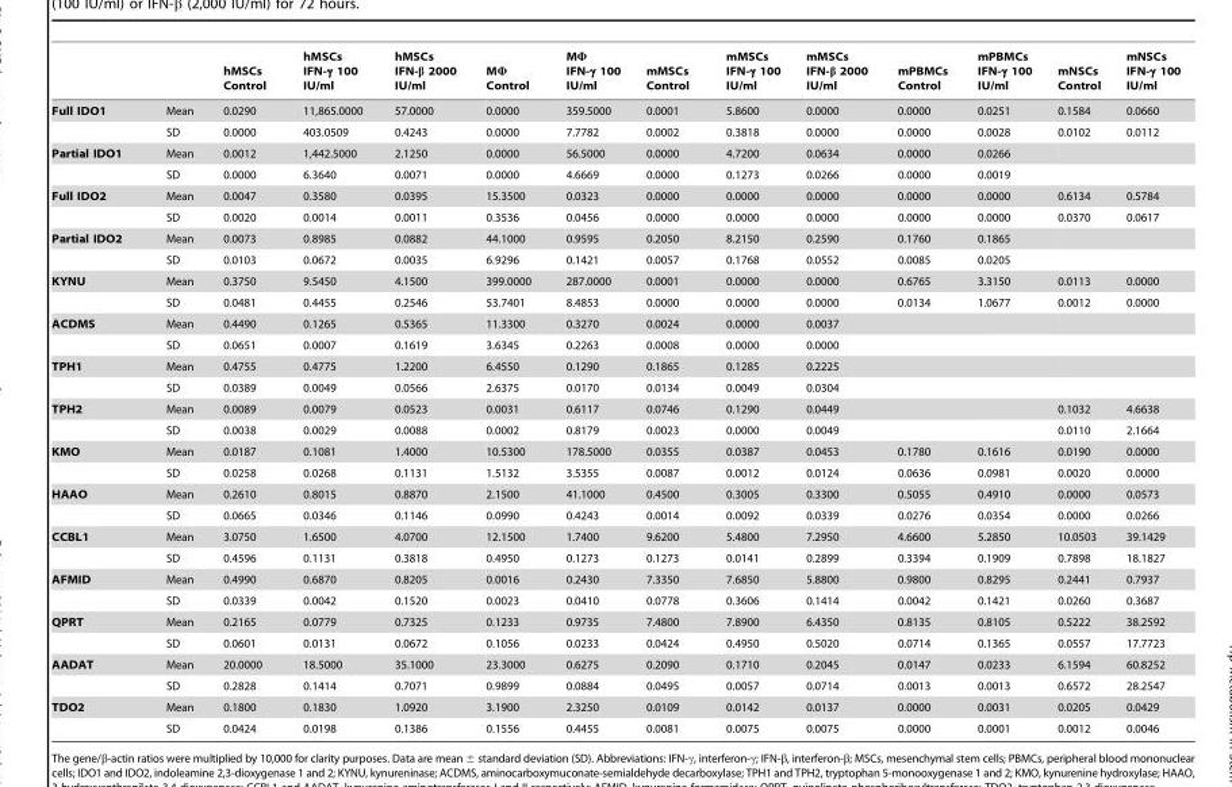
<table><thead><tr><td></td><td></td><td>hMSCs Control</td><td>hMSCs IFN-γ 100 IU/ml</td><td>hMSCs IFN-β 2000 IU/ml</td><td>MΦ Control</td><td>MΦ IFN-γ 100 IU/ml</td><td>mMSCs Control</td><td>mMSCs IFN-γ 100 IU/ml</td><td>mMSCs IFN-β 2000 IU/ml</td><td>mPBMCs Control</td><td>mPBMCs IFN-γ 100 IU/ml</td><td>mNSCs Control</td><td>mNSCs IFN-γ 100 IU/ml</td></tr></thead><tbody><tr><td rowspan="2">Full IDO1</td><td>Mean</td><td>0.0290</td><td>11,865.0000</td><td>57.0000</td><td>0.0000</td><td>359.5000</td><td>0.0001</td><td>5.8600</td><td>0.0000</td><td>0.0000</td><td>0.0251</td><td>0.1584</td><td>0.0660</td></tr><tr><td>SD</td><td>0.0000</td><td>403.0509</td><td>0.4243</td><td>0.0000</td><td>7.7782</td><td>0.0002</td><td>0.3818</td><td>0.0000</td><td>0.0000</td><td>0.0028</td><td>0.0102</td><td>0.0112</td></tr><tr><td rowspan="2">Partial IDO1</td><td>Mean</td><td>0.0012</td><td>1,442.5000</td><td>2.1250</td><td>0.0000</td><td>56.5000</td><td>0.0000</td><td>4.7200</td><td>0.0634</td><td>0.0000</td><td>0.0266</td><td></td><td></td></tr><tr><td>SD</td><td>0.0000</td><td>6.3640</td><td>0.0071</td><td>0.0000</td><td>4.6669</td><td>0.0000</td><td>0.1273</td><td>0.0266</td><td>0.0000</td><td>0.0019</td><td></td><td></td></tr><tr><td rowspan="2">Full IDO2</td><td>Mean</td><td>0.0047</td><td>0.3580</td><td>0.0395</td><td>15.3500</td><td>0.0323</td><td>0.0000</td><td>0.0000</td><td>0.0000</td><td>0.0000</td><td>0.0000</td><td>0.6134</td><td>0.5784</td></tr><tr><td>SD</td><td>0.0020</td><td>0.0014</td><td>0.0011</td><td>0.3536</td><td>0.0456</td><td>0.0000</td><td>0.0000</td><td>0.0000</td><td>0.0000</td><td>0.0000</td><td>0.0370</td><td>0.0617</td></tr><tr><td rowspan="2">Partial IDO2</td><td>Mean</td><td>0.0073</td><td>0.8985</td><td>0.0882</td><td>44.1000</td><td>0.9595</td><td>0.2050</td><td>8.2150</td><td>0.2590</td><td>0.1760</td><td>0.1865</td><td></td><td></td></tr><tr><td>SD</td><td>0.0103</td><td>0.0672</td><td>0.0035</td><td>6.9296</td><td>0.1421</td><td>0.0057</td><td>0.1768</td><td>0.0552</td><td>0.0085</td><td>0.0205</td><td></td><td></td></tr><tr><td rowspan="2">KYNU</td><td>Mean</td><td>0.3750</td><td>9.5450</td><td>4.1500</td><td>399.0000</td><td>287.0000</td><td>0.0001</td><td>0.0000</td><td>0.0000</td><td>0.6765</td><td>3.3150</td><td>0.0113</td><td>0.0000</td></tr><tr><td>SD</td><td>0.0481</td><td>0.4455</td><td>0.2546</td><td>53.7401</td><td>8.4853</td><td>0.0000</td><td>0.0000</td><td>0.0000</td><td>0.0134</td><td>1.0677</td><td>0.0012</td><td>0.0000</td></tr><tr><td rowspan="2">ACDMS</td><td>Mean</td><td>0.4490</td><td>0.1265</td><td>0.5365</td><td>11.3300</td><td>0.3270</td><td>0.0024</td><td>0.0000</td><td>0.0037</td><td></td><td></td><td></td><td></td></tr><tr><td>SD</td><td>0.0651</td><td>0.0007</td><td>0.1619</td><td>3.6345</td><td>0.2263</td><td>0.0008</td><td>0.0000</td><td>0.0000</td><td></td><td></td><td></td><td></td></tr><tr><td rowspan="2">TPH1</td><td>Mean</td><td>0.4755</td><td>0.4775</td><td>1.2200</td><td>6.4550</td><td>0.1290</td><td>0.1865</td><td>0.1285</td><td>0.2225</td><td></td><td></td><td></td><td></td></tr><tr><td>SD</td><td>0.0389</td><td>0.0049</td><td>0.0566</td><td>2.6375</td><td>0.0170</td><td>0.0134</td><td>0.0049</td><td>0.0304</td><td></td><td></td><td></td><td></td></tr><tr><td rowspan="2">TPH2</td><td>Mean</td><td>0.0089</td><td>0.0079</td><td>0.0523</td><td>0.0031</td><td>0.6117</td><td>0.0746</td><td>0.1290</td><td>0.0449</td><td></td><td></td><td>0.1032</td><td>4.6638</td></tr><tr><td>SD</td><td>0.0038</td><td>0.0029</td><td>0.0088</td><td>0.0002</td><td>0.8179</td><td>0.0023</td><td>0.0000</td><td>0.0049</td><td></td><td></td><td>0.0110</td><td>2.1664</td></tr><tr><td rowspan="2">KMO</td><td>Mean</td><td>0.0187</td><td>0.1081</td><td>1.4000</td><td>10.5300</td><td>178.5000</td><td>0.0355</td><td>0.0387</td><td>0.0453</td><td>0.1780</td><td>0.1616</td><td>0.0190</td><td>0.0000</td></tr><tr><td>SD</td><td>0.0258</td><td>0.0268</td><td>0.1131</td><td>1.5132</td><td>3.5355</td><td>0.0087</td><td>0.0012</td><td>0.0124</td><td>0.0636</td><td>0.0981</td><td>0.0020</td><td>0.0000</td></tr><tr><td rowspan="2">HAAO</td><td>Mean</td><td>0.2610</td><td>0.8015</td><td>0.8870</td><td>2.1500</td><td>41.1000</td><td>0.4500</td><td>0.3005</td><td>0.3300</td><td>0.5055</td><td>0.4910</td><td>0.0000</td><td>0.0573</td></tr><tr><td>SD</td><td>0.0665</td><td>0.0346</td><td>0.1146</td><td>0.0990</td><td>0.4243</td><td>0.0014</td><td>0.0092</td><td>0.0339</td><td>0.0276</td><td>0.0354</td><td>0.0000</td><td>0.0266</td></tr><tr><td rowspan="2">CCBL1</td><td>Mean</td><td>3.0750</td><td>1.6500</td><td>4.0700</td><td>12.1500</td><td>1.7400</td><td>9.6200</td><td>5.4800</td><td>7.2950</td><td>4.6600</td><td>5.2850</td><td>10.0503</td><td>39.1429</td></tr><tr><td>SD</td><td>0.4596</td><td>0.1131</td><td>0.3818</td><td>0.4950</td><td>0.1273</td><td>0.1273</td><td>0.0141</td><td>0.2899</td><td>0.3394</td><td>0.1909</td><td>0.7898</td><td>18.1827</td></tr><tr><td rowspan="2">AFMID</td><td>Mean</td><td>0.4990</td><td>0.6870</td><td>0.8205</td><td>0.0016</td><td>0.2430</td><td>7.3350</td><td>7.6850</td><td>5.8800</td><td>0.9800</td><td>0.8295</td><td>0.2441</td><td>0.7937</td></tr><tr><td>SD</td><td>0.0339</td><td>0.0042</td><td>0.1520</td><td>0.0023</td><td>0.0410</td><td>0.0778</td><td>0.3606</td><td>0.1414</td><td>0.0042</td><td>0.1421</td><td>0.0260</td><td>0.3687</td></tr><tr><td rowspan="2">QPRT</td><td>Mean</td><td>0.2165</td><td>0.0779</td><td>0.7325</td><td>0.1233</td><td>0.9735</td><td>7.4800</td><td>7.8900</td><td>6.4350</td><td>0.8135</td><td>0.8105</td><td>0.5222</td><td>38.2592</td></tr><tr><td>SD</td><td>0.0601</td><td>0.0131</td><td>0.0672</td><td>0.1056</td><td>0.0233</td><td>0.0424</td><td>0.4950</td><td>0.5020</td><td>0.0714</td><td>0.1365</td><td>0.0557</td><td>17.7723</td></tr><tr><td rowspan="2">AADAT</td><td>Mean</td><td>20.0000</td><td>18.5000</td><td>35.1000</td><td>23.3000</td><td>0.6275</td><td>0.2090</td><td>0.1710</td><td>0.2045</td><td>0.0147</td><td>0.0233</td><td>6.1594</td><td>60.8252</td></tr><tr><td>SD</td><td>0.2828</td><td>0.1414</td><td>0.7071</td><td>0.9899</td><td>0.0884</td><td>0.0495</td><td>0.0057</td><td>0.0714</td><td>0.0013</td><td>0.0013</td><td>0.6572</td><td>28.2547</td></tr><tr><td rowspan="2">TDO2</td><td>Mean</td><td>0.1800</td><td>0.1830</td><td>1.0920</td><td>3.1900</td><td>2.3250</td><td>0.0109</td><td>0.0142</td><td>0.0137</td><td>0.0000</td><td>0.0031</td><td>0.0205</td><td>0.0429</td></tr><tr><td>SD</td><td>0.0424</td><td>0.0198</td><td>0.1386</td><td>0.1556</td><td>0.4455</td><td>0.0081</td><td>0.0075</td><td>0.0075</td><td>0.0000</td><td>0.0001</td><td>0.0012</td><td>0.0046</td></tr></tbody></table>